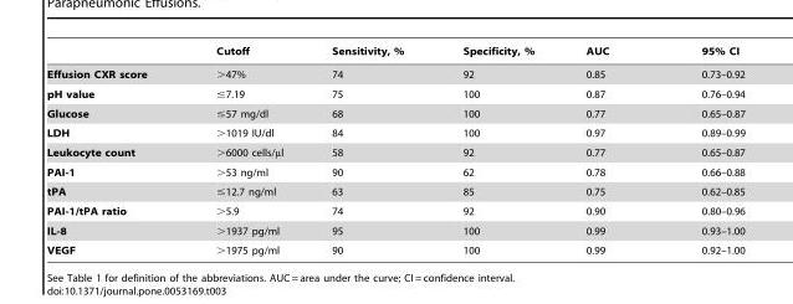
<table><thead><tr><td></td><td>Cutoff</td><td>Sensitivity, %</td><td>Specificity, %</td><td>AUC</td><td>95% CI</td></tr></thead><tbody><tr><td>Effusion CXR score</td><td>&gt;47%</td><td>74</td><td>92</td><td>0.85</td><td>0.73–0.92</td></tr><tr><td>pH value</td><td>≤7.19</td><td>75</td><td>100</td><td>0.87</td><td>0.76–0.94</td></tr><tr><td>Glucose</td><td>≤57 mg/dl</td><td>68</td><td>100</td><td>0.77</td><td>0.65–0.87</td></tr><tr><td>LDH</td><td>&gt;1019 IU/dl</td><td>84</td><td>100</td><td>0.97</td><td>0.89–0.99</td></tr><tr><td>Leukocyte count</td><td>&gt;6000 cells/µl</td><td>58</td><td>92</td><td>0.77</td><td>0.65–0.87</td></tr><tr><td>PAI-1</td><td>&gt;53 ng/ml</td><td>90</td><td>62</td><td>0.78</td><td>0.66–0.88</td></tr><tr><td>tPA</td><td>≤12.7 ng/ml</td><td>63</td><td>85</td><td>0.75</td><td>0.62–0.85</td></tr><tr><td>PAI-1/tPA ratio</td><td>&gt;5.9</td><td>74</td><td>92</td><td>0.90</td><td>0.80–0.96</td></tr><tr><td>IL-8</td><td>&gt;1937 pg/ml</td><td>95</td><td>100</td><td>0.99</td><td>0.93–1.00</td></tr><tr><td>VEGF</td><td>&gt;1975 pg/ml</td><td>90</td><td>100</td><td>0.99</td><td>0.92–1.00</td></tr></tbody></table>